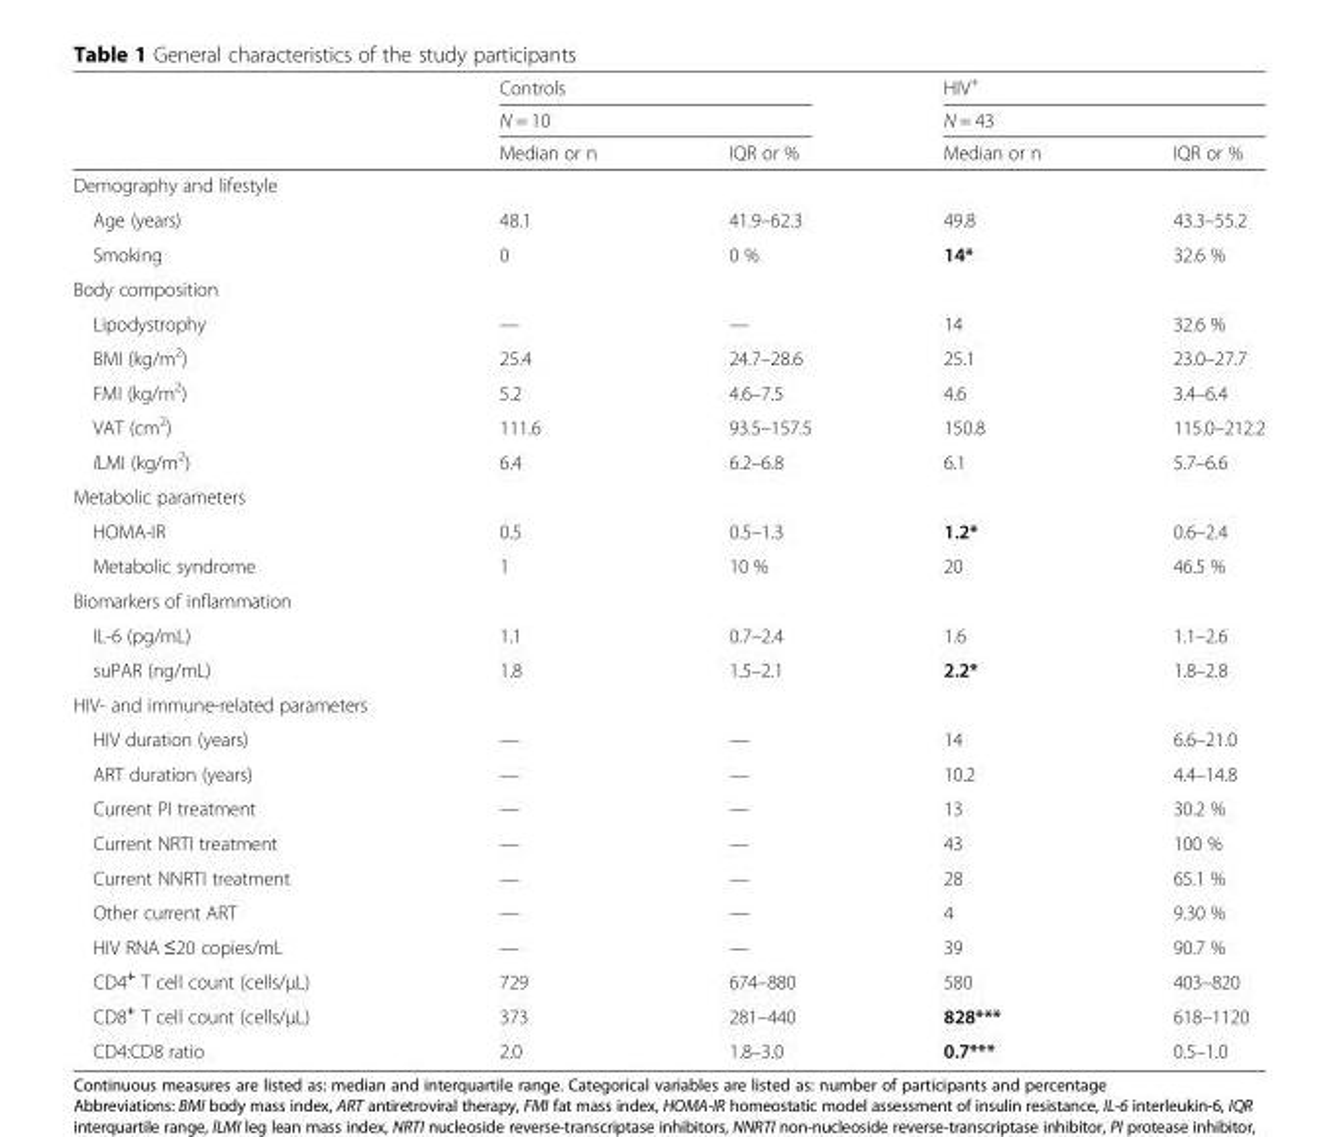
<table><thead><tr><td rowspan="3"></td><td rowspan="2" colspan="2">Controls N = 10</td><td rowspan="2" colspan="2">HIV<sup>+</sup> N = 43</td></tr><tr></tr><tr><td>Median or n</td><td>IQR or %</td><td>Median or n</td><td>IQR or %</td></tr></thead><tbody><tr><td colspan="5">Demography and lifestyle</td></tr><tr><td>Age (years)</td><td>48.1</td><td>41.9–62.3</td><td>49.8</td><td>43.3–55.2</td></tr><tr><td>Smoking</td><td>0</td><td>0 %</td><td>14*</td><td>32.6 %</td></tr><tr><td colspan="5">Body composition</td></tr><tr><td>Lipodystrophy</td><td>—</td><td>—</td><td>14</td><td>32.6 %</td></tr><tr><td>BMI (kg/m<sup>2</sup>)</td><td>25.4</td><td>24.7–28.6</td><td>25.1</td><td>23.0–27.7</td></tr><tr><td>FMI (kg/m<sup>2</sup>)</td><td>5.2</td><td>4.6–7.5</td><td>4.6</td><td>3.4–6.4</td></tr><tr><td>VAT (cm<sup>2</sup>)</td><td>111.6</td><td>93.5–157.5</td><td>150.8</td><td>115.0–212.2</td></tr><tr><td>lLMI (kg/m<sup>2</sup>)</td><td>6.4</td><td>6.2–6.8</td><td>6.1</td><td>5.7–6.6</td></tr><tr><td colspan="5">Metabolic parameters</td></tr><tr><td>HOMA-IR</td><td>0.5</td><td>0.5–1.3</td><td>1.2*</td><td>0.6–2.4</td></tr><tr><td>Metabolic syndrome</td><td>1</td><td>10 %</td><td>20</td><td>46.5 %</td></tr><tr><td colspan="5">Biomarkers of inflammation</td></tr><tr><td>IL-6 (pg/mL)</td><td>1.1</td><td>0.7–2.4</td><td>1.6</td><td>1.1–2.6</td></tr><tr><td>suPAR (ng/mL)</td><td>1.8</td><td>1.5–2.1</td><td>2.2*</td><td>1.8–2.8</td></tr><tr><td colspan="5">HIV- and immune-related parameters</td></tr><tr><td>HIV duration (years)</td><td>—</td><td>—</td><td>14</td><td>6.6–21.0</td></tr><tr><td>ART duration (years)</td><td>—</td><td>—</td><td>10.2</td><td>4.4–14.8</td></tr><tr><td>Current PI treatment</td><td>—</td><td>—</td><td>13</td><td>30.2 %</td></tr><tr><td>Current NRTI treatment</td><td>—</td><td>—</td><td>43</td><td>100 %</td></tr><tr><td>Current NNRTI treatment</td><td>—</td><td>—</td><td>28</td><td>65.1 %</td></tr><tr><td>Other current ART</td><td>—</td><td>—</td><td>4</td><td>9.30 %</td></tr><tr><td>HIV RNA ≤20 copies/mL</td><td>—</td><td>—</td><td>39</td><td>90.7 %</td></tr><tr><td>CD4<sup>+</sup> T cell count (cells/μL)</td><td>729</td><td>674–880</td><td>580</td><td>403–820</td></tr><tr><td>CD8<sup>+</sup> T cell count (cells/μL)</td><td>373</td><td>281–440</td><td>828***</td><td>618–1120</td></tr><tr><td>CD4:CD8 ratio</td><td>2.0</td><td>1.8–3.0</td><td>0.7***</td><td>0.5–1.0</td></tr></tbody></table>